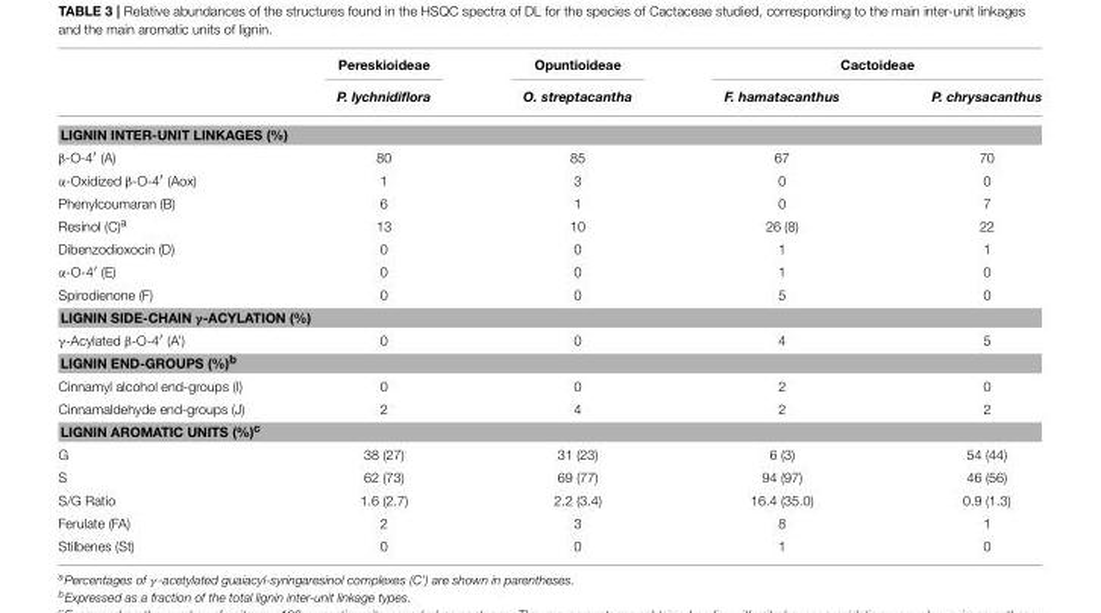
<table><thead><tr><td rowspan="2"></td><td rowspan="2">Pereskioideae P. lychnidiflora</td><td rowspan="2">Opuntioideae O. streptacantha</td><td colspan="2">Cactoideae</td></tr><tr><td>F. hamatacanthus</td><td>P. chrysacanthus</td></tr></thead><tbody><tr><td colspan="5">LIGNIN INTER-UNIT LINKAGES (%)</td></tr><tr><td>β-O-4′ (A)</td><td>80</td><td>85</td><td>67</td><td>70</td></tr><tr><td>α-Oxidized β-O-4′ (Aox)</td><td>1</td><td>3</td><td>0</td><td>0</td></tr><tr><td>Phenylcoumaran (B)</td><td>6</td><td>1</td><td>0</td><td>7</td></tr><tr><td>Resinol (C)<sup>a</sup></td><td>13</td><td>10</td><td>26 (8)</td><td>22</td></tr><tr><td>Dibenzodioxocin (D)</td><td>0</td><td>0</td><td>1</td><td>1</td></tr><tr><td>α-O-4′ (E)</td><td>0</td><td>0</td><td>1</td><td>0</td></tr><tr><td>Spirodienone (F)</td><td>0</td><td>0</td><td>5</td><td>0</td></tr><tr><td colspan="5">LIGNIN SIDE-CHAIN γ-ACYLATION (%)</td></tr><tr><td>γ-Acylated β-O-4′ (A’)</td><td>0</td><td>0</td><td>4</td><td>5</td></tr><tr><td colspan="5">LIGNIN END-GROUPS (%)<sup>b</sup></td></tr><tr><td>Cinnamyl alcohol end-groups (I)</td><td>0</td><td>0</td><td>2</td><td>0</td></tr><tr><td>Cinnamaldehyde end-groups (J)</td><td>2</td><td>4</td><td>2</td><td>2</td></tr><tr><td colspan="5">LIGNIN AROMATIC UNITS (%)<sup>c</sup></td></tr><tr><td>G</td><td>38 (27)</td><td>31 (23)</td><td>6 (3)</td><td>54 (44)</td></tr><tr><td>S</td><td>62 (73)</td><td>69 (77)</td><td>94 (97)</td><td>46 (56)</td></tr><tr><td>S/G Ratio</td><td>1.6 (2.7)</td><td>2.2 (3.4)</td><td>16.4 (35.0)</td><td>0.9 (1.3)</td></tr><tr><td>Ferulate (FA)</td><td>2</td><td>3</td><td>8</td><td>1</td></tr><tr><td>Stilbenes (St)</td><td>0</td><td>0</td><td>1</td><td>0</td></tr></tbody></table>